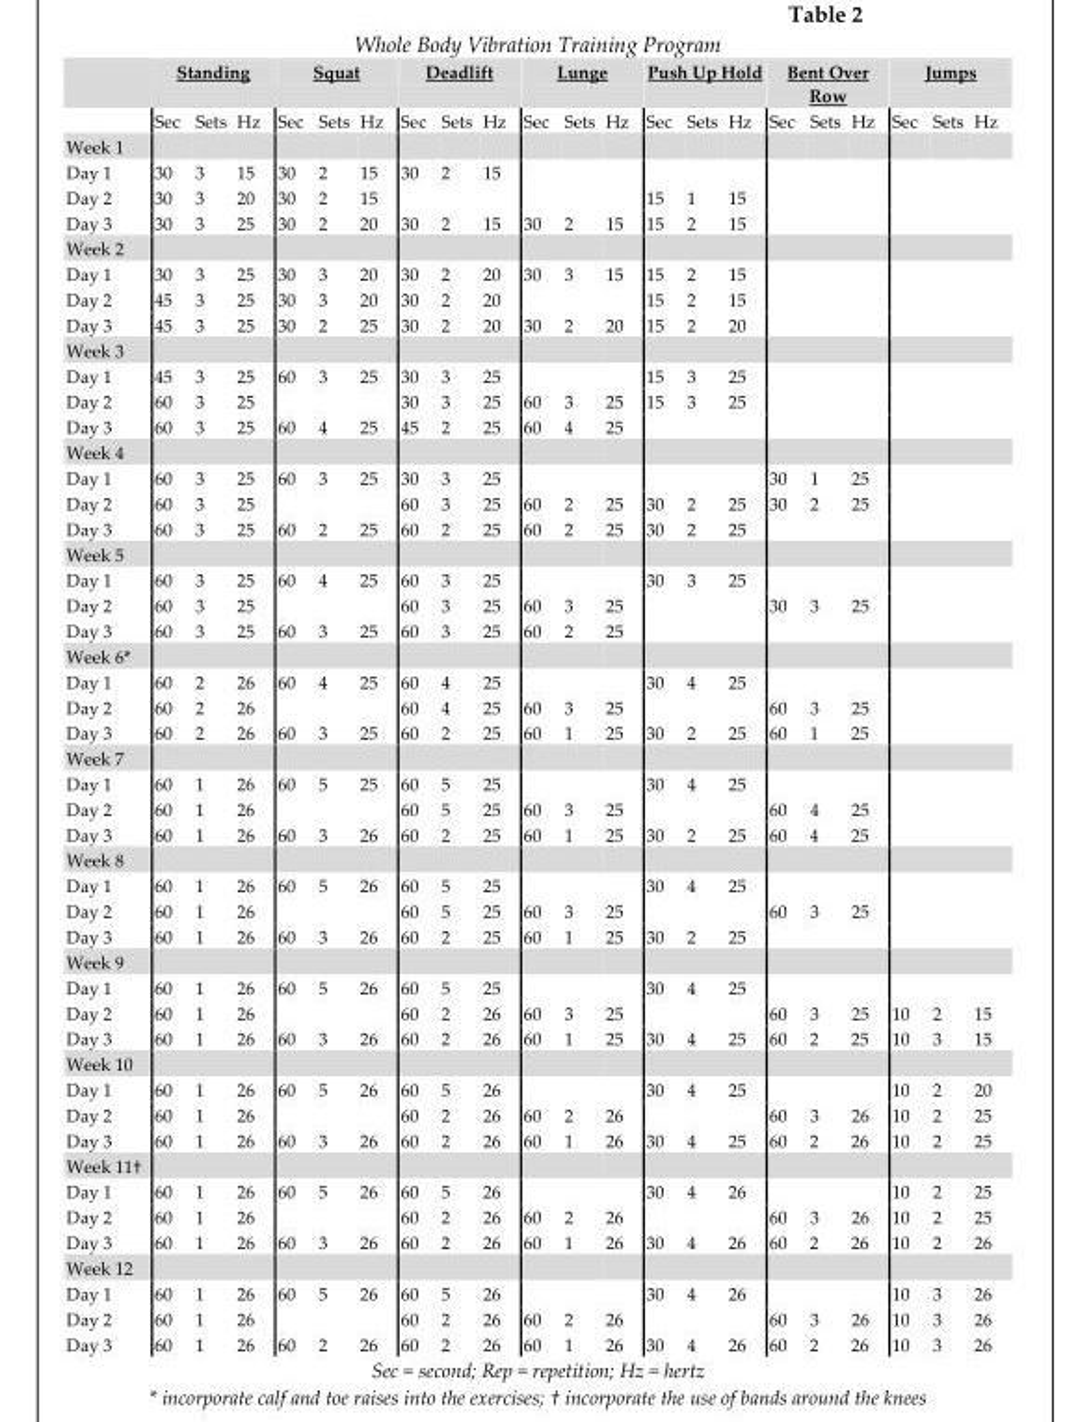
<table><thead><tr><td rowspan="2"></td><td colspan="3">Standing</td><td colspan="3">Squat</td><td colspan="3">Deadlift</td><td colspan="3">Lunge</td><td colspan="3">Push Up Hold</td><td colspan="3">Bent Over Row</td><td colspan="3">Jumps</td></tr><tr><td>Sec</td><td>Sets</td><td>Hz</td><td>Sec</td><td>Sets</td><td>Hz</td><td>Sec</td><td>Sets</td><td>Hz</td><td>Sec</td><td>Sets</td><td>Hz</td><td>Sec</td><td>Sets</td><td>Hz</td><td>Sec</td><td>Sets</td><td>Hz</td><td>Sec</td><td>Sets</td><td>Hz</td></tr></thead><tbody><tr><td colspan="22">Week 1</td></tr><tr><td>Day 1</td><td>30</td><td>3</td><td>15</td><td>30</td><td>2</td><td>15</td><td>30</td><td>2</td><td>15</td><td></td><td></td><td></td><td></td><td></td><td></td><td></td><td></td><td></td><td></td><td></td><td></td></tr><tr><td>Day 2</td><td>30</td><td>3</td><td>20</td><td>30</td><td>2</td><td>15</td><td></td><td></td><td></td><td></td><td></td><td></td><td>15</td><td>1</td><td>15</td><td></td><td></td><td></td><td></td><td></td><td></td></tr><tr><td>Day 3</td><td>30</td><td>3</td><td>25</td><td>30</td><td>2</td><td>20</td><td>30</td><td>2</td><td>15</td><td>30</td><td>2</td><td>15</td><td>15</td><td>2</td><td>15</td><td></td><td></td><td></td><td></td><td></td><td></td></tr><tr><td colspan="22">Week 2</td></tr><tr><td>Day 1</td><td>30</td><td>3</td><td>25</td><td>30</td><td>3</td><td>20</td><td>30</td><td>2</td><td>20</td><td>30</td><td>3</td><td>15</td><td>15</td><td>2</td><td>15</td><td></td><td></td><td></td><td></td><td></td><td></td></tr><tr><td>Day 2</td><td>45</td><td>3</td><td>25</td><td>30</td><td>3</td><td>20</td><td>30</td><td>2</td><td>20</td><td></td><td></td><td></td><td>15</td><td>2</td><td>15</td><td></td><td></td><td></td><td></td><td></td><td></td></tr><tr><td>Day 3</td><td>45</td><td>3</td><td>25</td><td>30</td><td>2</td><td>25</td><td>30</td><td>2</td><td>20</td><td>30</td><td>2</td><td>20</td><td>15</td><td>2</td><td>20</td><td></td><td></td><td></td><td></td><td></td><td></td></tr><tr><td colspan="22">Week 3</td></tr><tr><td>Day 1</td><td>45</td><td>3</td><td>25</td><td>60</td><td>3</td><td>25</td><td>30</td><td>3</td><td>25</td><td></td><td></td><td></td><td>15</td><td>3</td><td>25</td><td></td><td></td><td></td><td></td><td></td><td></td></tr><tr><td>Day 2</td><td>60</td><td>3</td><td>25</td><td></td><td></td><td></td><td>30</td><td>3</td><td>25</td><td>60</td><td>3</td><td>25</td><td>15</td><td>3</td><td>25</td><td></td><td></td><td></td><td></td><td></td><td></td></tr><tr><td>Day 3</td><td>60</td><td>3</td><td>25</td><td>60</td><td>4</td><td>25</td><td>45</td><td>2</td><td>25</td><td>60</td><td>4</td><td>25</td><td></td><td></td><td></td><td></td><td></td><td></td><td></td><td></td><td></td></tr><tr><td colspan="22">Week 4</td></tr><tr><td>Day 1</td><td>60</td><td>3</td><td>25</td><td>60</td><td>3</td><td>25</td><td>30</td><td>3</td><td>25</td><td></td><td></td><td></td><td></td><td></td><td></td><td>30</td><td>1</td><td>25</td><td></td><td></td><td></td></tr><tr><td>Day 2</td><td>60</td><td>3</td><td>25</td><td></td><td></td><td></td><td>60</td><td>3</td><td>25</td><td>60</td><td>2</td><td>25</td><td>30</td><td>2</td><td>25</td><td>30</td><td>2</td><td>25</td><td></td><td></td><td></td></tr><tr><td>Day 3</td><td>60</td><td>3</td><td>25</td><td>60</td><td>2</td><td>25</td><td>60</td><td>2</td><td>25</td><td>60</td><td>2</td><td>25</td><td>30</td><td>2</td><td>25</td><td></td><td></td><td></td><td></td><td></td><td></td></tr><tr><td colspan="22">Week 5</td></tr><tr><td>Day 1</td><td>60</td><td>3</td><td>25</td><td>60</td><td>4</td><td>25</td><td>60</td><td>3</td><td>25</td><td></td><td></td><td></td><td>30</td><td>3</td><td>25</td><td></td><td></td><td></td><td></td><td></td><td></td></tr><tr><td>Day 2</td><td>60</td><td>3</td><td>25</td><td></td><td></td><td></td><td>60</td><td>3</td><td>25</td><td>60</td><td>3</td><td>25</td><td></td><td></td><td></td><td>30</td><td>3</td><td>25</td><td></td><td></td><td></td></tr><tr><td>Day 3</td><td>60</td><td>3</td><td>25</td><td>60</td><td>3</td><td>25</td><td>60</td><td>3</td><td>25</td><td>60</td><td>2</td><td>25</td><td></td><td></td><td></td><td></td><td></td><td></td><td></td><td></td><td></td></tr><tr><td colspan="22">Week 6*</td></tr><tr><td>Day 1</td><td>60</td><td>2</td><td>26</td><td>60</td><td>4</td><td>25</td><td>60</td><td>4</td><td>25</td><td></td><td></td><td></td><td>30</td><td>4</td><td>25</td><td></td><td></td><td></td><td></td><td></td><td></td></tr><tr><td>Day 2</td><td>60</td><td>2</td><td>26</td><td></td><td></td><td></td><td>60</td><td>4</td><td>25</td><td>60</td><td>3</td><td>25</td><td></td><td></td><td></td><td>60</td><td>3</td><td>25</td><td></td><td></td><td></td></tr><tr><td>Day 3</td><td>60</td><td>2</td><td>26</td><td>60</td><td>3</td><td>25</td><td>60</td><td>2</td><td>25</td><td>60</td><td>1</td><td>25</td><td>30</td><td>2</td><td>25</td><td>60</td><td>1</td><td>25</td><td></td><td></td><td></td></tr><tr><td colspan="22">Week 7</td></tr><tr><td>Day 1</td><td>60</td><td>1</td><td>26</td><td>60</td><td>5</td><td>25</td><td>60</td><td>5</td><td>25</td><td></td><td></td><td></td><td>30</td><td>4</td><td>25</td><td></td><td></td><td></td><td></td><td></td><td></td></tr><tr><td>Day 2</td><td>60</td><td>1</td><td>26</td><td></td><td></td><td></td><td>60</td><td>5</td><td>25</td><td>60</td><td>3</td><td>25</td><td></td><td></td><td></td><td>60</td><td>4</td><td>25</td><td></td><td></td><td></td></tr><tr><td>Day 3</td><td>60</td><td>1</td><td>26</td><td>60</td><td>3</td><td>26</td><td>60</td><td>2</td><td>25</td><td>60</td><td>1</td><td>25</td><td>30</td><td>2</td><td>25</td><td>60</td><td>4</td><td>25</td><td></td><td></td><td></td></tr><tr><td colspan="22">Week 8</td></tr><tr><td>Day 1</td><td>60</td><td>1</td><td>26</td><td>60</td><td>5</td><td>26</td><td>60</td><td>5</td><td>25</td><td></td><td></td><td></td><td>30</td><td>4</td><td>25</td><td></td><td></td><td></td><td></td><td></td><td></td></tr><tr><td>Day 2</td><td>60</td><td>1</td><td>26</td><td></td><td></td><td></td><td>60</td><td>5</td><td>25</td><td>60</td><td>3</td><td>25</td><td></td><td></td><td></td><td>60</td><td>3</td><td>25</td><td></td><td></td><td></td></tr><tr><td>Day 3</td><td>60</td><td>1</td><td>26</td><td>60</td><td>3</td><td>26</td><td>60</td><td>2</td><td>25</td><td>60</td><td>1</td><td>25</td><td>30</td><td>2</td><td>25</td><td></td><td></td><td></td><td></td><td></td><td></td></tr><tr><td colspan="22">Week 9</td></tr><tr><td>Day 1</td><td>60</td><td>1</td><td>26</td><td>60</td><td>5</td><td>26</td><td>60</td><td>5</td><td>25</td><td></td><td></td><td></td><td>30</td><td>4</td><td>25</td><td></td><td></td><td></td><td></td><td></td><td></td></tr><tr><td>Day 2</td><td>60</td><td>1</td><td>26</td><td></td><td></td><td></td><td>60</td><td>2</td><td>26</td><td>60</td><td>3</td><td>25</td><td></td><td></td><td></td><td>60</td><td>3</td><td>25</td><td>10</td><td>2</td><td>15</td></tr><tr><td>Day 3</td><td>60</td><td>1</td><td>26</td><td>60</td><td>3</td><td>26</td><td>60</td><td>2</td><td>26</td><td>60</td><td>1</td><td>25</td><td>30</td><td>4</td><td>25</td><td>60</td><td>2</td><td>25</td><td>10</td><td>3</td><td>15</td></tr><tr><td colspan="22">Week 10</td></tr><tr><td>Day 1</td><td>60</td><td>1</td><td>26</td><td>60</td><td>5</td><td>26</td><td>60</td><td>5</td><td>26</td><td></td><td></td><td></td><td>30</td><td>4</td><td>25</td><td></td><td></td><td></td><td>10</td><td>2</td><td>20</td></tr><tr><td>Day 2</td><td>60</td><td>1</td><td>26</td><td></td><td></td><td></td><td>60</td><td>2</td><td>26</td><td>60</td><td>2</td><td>26</td><td></td><td></td><td></td><td>60</td><td>3</td><td>26</td><td>10</td><td>2</td><td>25</td></tr><tr><td>Day 3</td><td>60</td><td>1</td><td>26</td><td>60</td><td>3</td><td>26</td><td>60</td><td>2</td><td>26</td><td>60</td><td>1</td><td>26</td><td>30</td><td>4</td><td>25</td><td>60</td><td>2</td><td>26</td><td>10</td><td>2</td><td>25</td></tr><tr><td colspan="22">Week 11<sup>†</sup></td></tr><tr><td>Day 1</td><td>60</td><td>1</td><td>26</td><td>60</td><td>5</td><td>26</td><td>60</td><td>5</td><td>26</td><td></td><td></td><td></td><td>30</td><td>4</td><td>26</td><td></td><td></td><td></td><td>10</td><td>2</td><td>25</td></tr><tr><td>Day 2</td><td>60</td><td>1</td><td>26</td><td></td><td></td><td></td><td>60</td><td>2</td><td>26</td><td>60</td><td>2</td><td>26</td><td></td><td></td><td></td><td>60</td><td>3</td><td>26</td><td>10</td><td>2</td><td>25</td></tr><tr><td>Day 3</td><td>60</td><td>1</td><td>26</td><td>60</td><td>3</td><td>26</td><td>60</td><td>2</td><td>26</td><td>60</td><td>1</td><td>26</td><td>30</td><td>4</td><td>26</td><td>60</td><td>2</td><td>26</td><td>10</td><td>2</td><td>26</td></tr><tr><td colspan="22">Week 12</td></tr><tr><td>Day 1</td><td>60</td><td>1</td><td>26</td><td>60</td><td>5</td><td>26</td><td>60</td><td>5</td><td>26</td><td></td><td></td><td></td><td>30</td><td>4</td><td>26</td><td></td><td></td><td></td><td>10</td><td>3</td><td>26</td></tr><tr><td>Day 2</td><td>60</td><td>1</td><td>26</td><td></td><td></td><td></td><td>60</td><td>2</td><td>26</td><td>60</td><td>2</td><td>26</td><td></td><td></td><td></td><td>60</td><td>3</td><td>26</td><td>10</td><td>3</td><td>26</td></tr><tr><td>Day 3</td><td>60</td><td>1</td><td>26</td><td>60</td><td>2</td><td>26</td><td>60</td><td>2</td><td>26</td><td>60</td><td>1</td><td>26</td><td>30</td><td>4</td><td>26</td><td>60</td><td>2</td><td>26</td><td>10</td><td>3</td><td>26</td></tr></tbody></table>